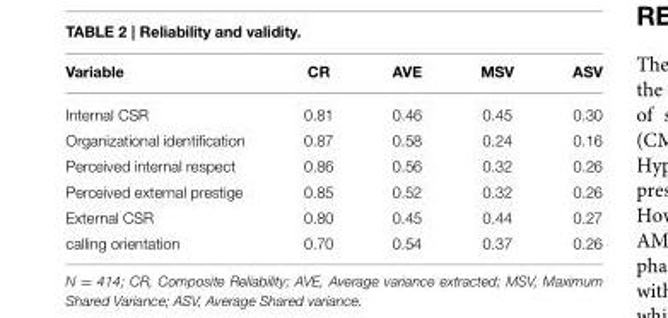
<table><thead><tr><td>Variable</td><td>CR</td><td>AVE</td><td>MSV</td><td>ASV</td></tr></thead><tbody><tr><td>Internal CSR</td><td>0.81</td><td>0.46</td><td>0.45</td><td>0.30</td></tr><tr><td>Organizational identification</td><td>0.87</td><td>0.58</td><td>0.24</td><td>0.16</td></tr><tr><td>Perceived internal respect</td><td>0.86</td><td>0.56</td><td>0.32</td><td>0.26</td></tr><tr><td>Perceived external prestige</td><td>0.85</td><td>0.52</td><td>0.32</td><td>0.26</td></tr><tr><td>External CSR</td><td>0.80</td><td>0.45</td><td>0.44</td><td>0.27</td></tr><tr><td>calling orientation</td><td>0.70</td><td>0.54</td><td>0.37</td><td>0.26</td></tr></tbody></table>